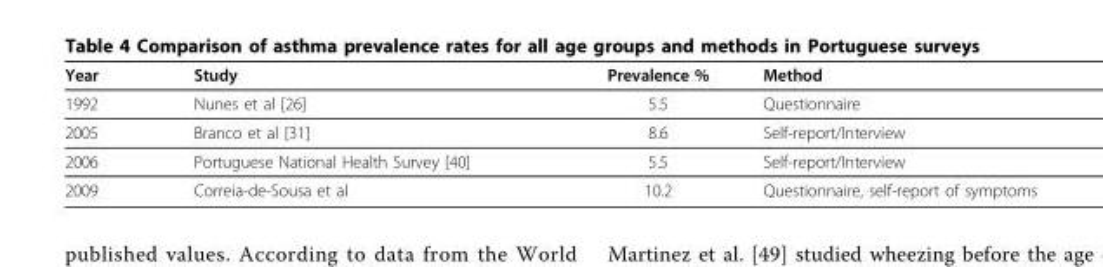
<table><thead><tr><td>Year</td><td>Study</td><td>Prevalence %</td><td>Method</td></tr></thead><tbody><tr><td>1992</td><td>Nunes et al [26]</td><td>5.5</td><td>Questionnaire</td></tr><tr><td>2005</td><td>Branco et al [31]</td><td>8.6</td><td>Self-report/Interview</td></tr><tr><td>2006</td><td>Portuguese National Health Survey [40]</td><td>5.5</td><td>Self-report/Interview</td></tr><tr><td>2009</td><td>Correia-de-Sousa et al</td><td>10.2</td><td>Questionnaire, self-report of symptoms</td></tr></tbody></table>